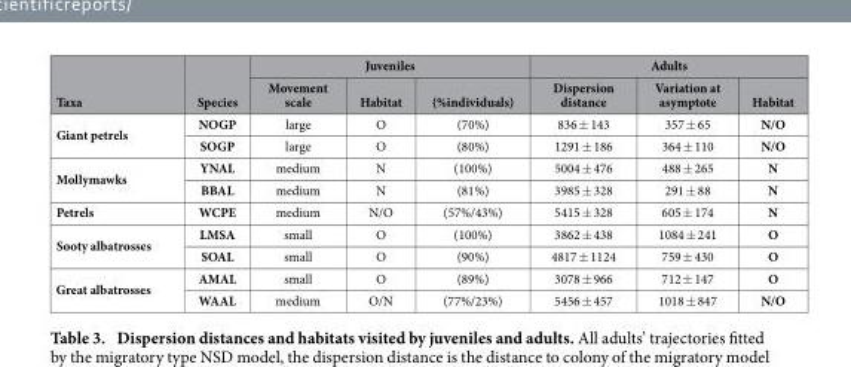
<table><thead><tr><td rowspan="2">Taxa</td><td rowspan="2">Species</td><td colspan="3">Juveniles</td><td colspan="3">Adults</td></tr><tr><td>Movement scale</td><td>Habitat</td><td>(%individuals)</td><td>Dispersion distance</td><td>Variation at asymptote</td><td>Habitat</td></tr></thead><tbody><tr><td rowspan="2">Giant petrels</td><td>NOGP</td><td>large</td><td>O</td><td>(70%)</td><td>836 ± 143</td><td>357 ± 65</td><td>N/O</td></tr><tr><td>SOGP</td><td>large</td><td>O</td><td>(80%)</td><td>1291 ± 186</td><td>364 ± 110</td><td>N/O</td></tr><tr><td rowspan="2">Mollymawks</td><td>YNAL</td><td>medium</td><td>N</td><td>(100%)</td><td>5004 ± 476</td><td>488 ± 265</td><td>N</td></tr><tr><td>BBAL</td><td>medium</td><td>N</td><td>(81%)</td><td>3985 ± 328</td><td>291 ± 88</td><td>N</td></tr><tr><td>Petrels</td><td>WCPE</td><td>medium</td><td>N/O</td><td>(57%/43%)</td><td>5415 ± 328</td><td>605 ± 174</td><td>N</td></tr><tr><td rowspan="2">Sooty albatrosses</td><td>LMSA</td><td>small</td><td>O</td><td>(100%)</td><td>3862 ± 438</td><td>1084 ± 241</td><td>O</td></tr><tr><td>SOAL</td><td>small</td><td>O</td><td>(90%)</td><td>4817 ± 1124</td><td>759 ± 430</td><td>O</td></tr><tr><td rowspan="2">Great albatrosses</td><td>AMAL</td><td>small</td><td>O</td><td>(89%)</td><td>3078 ± 966</td><td>712 ± 147</td><td>O</td></tr><tr><td>WAAL</td><td>medium</td><td>O/N</td><td>(77%/23%)</td><td>5456 ± 457</td><td>1018 ± 847</td><td>N/O</td></tr></tbody></table>